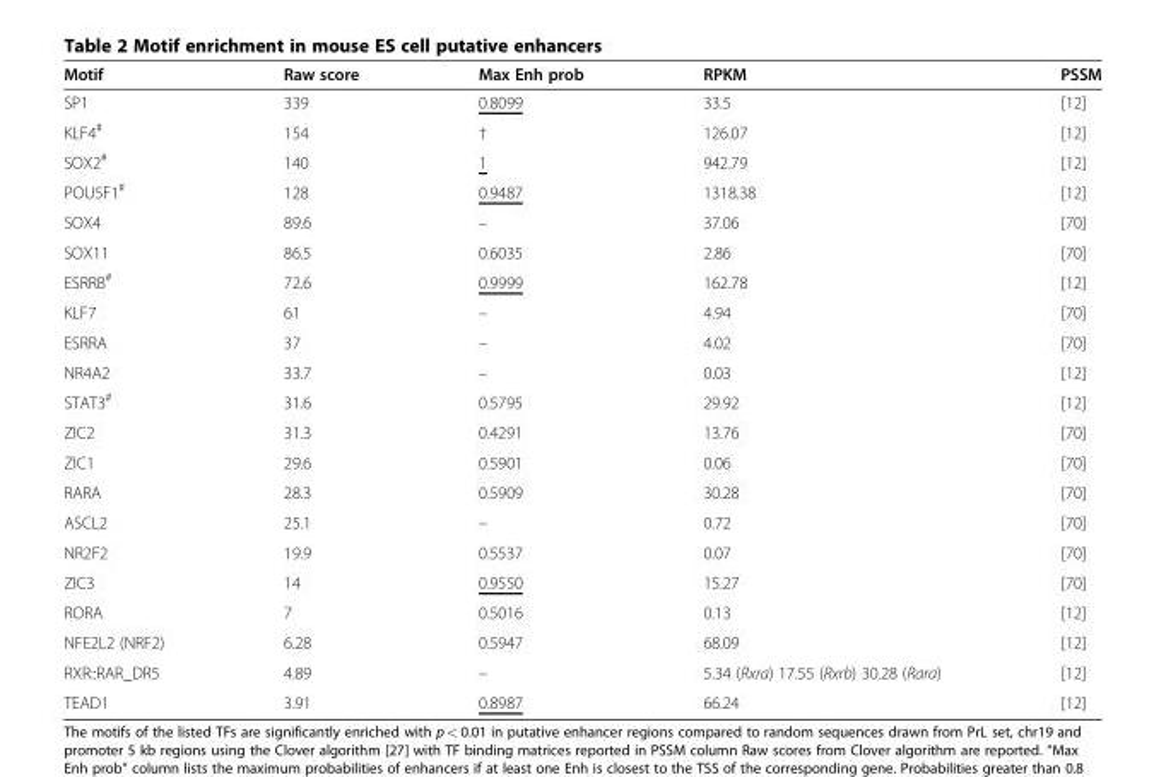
<table><thead><tr><td>Motif</td><td>Raw score</td><td>Max Enh prob</td><td>RPKM</td><td>PSSM</td></tr></thead><tbody><tr><td>SP1</td><td>339</td><td>0.8099</td><td>33.5</td><td>[12]</td></tr><tr><td>KLF4<sup>#</sup></td><td>154</td><td>†</td><td>126.07</td><td>[12]</td></tr><tr><td>SOX2<sup>#</sup></td><td>140</td><td>1</td><td>942.79</td><td>[12]</td></tr><tr><td>POU5F1<sup>#</sup></td><td>128</td><td>0.9487</td><td>1318.38</td><td>[12]</td></tr><tr><td>SOX4</td><td>89.6</td><td>–</td><td>37.06</td><td>[70]</td></tr><tr><td>SOX11</td><td>86.5</td><td>0.6035</td><td>2.86</td><td>[70]</td></tr><tr><td>ESRRB<sup>#</sup></td><td>72.6</td><td>0.9999</td><td>162.78</td><td>[12]</td></tr><tr><td>KLF7</td><td>61</td><td>–</td><td>4.94</td><td>[70]</td></tr><tr><td>ESRRA</td><td>37</td><td>–</td><td>4.02</td><td>[70]</td></tr><tr><td>NR4A2</td><td>33.7</td><td>–</td><td>0.03</td><td>[12]</td></tr><tr><td>STAT3<sup>#</sup></td><td>31.6</td><td>0.5795</td><td>29.92</td><td>[12]</td></tr><tr><td>ZIC2</td><td>31.3</td><td>0.4291</td><td>13.76</td><td>[70]</td></tr><tr><td>ZIC1</td><td>29.6</td><td>0.5901</td><td>0.06</td><td>[70]</td></tr><tr><td>RARA</td><td>28.3</td><td>0.5909</td><td>30.28</td><td>[70]</td></tr><tr><td>ASCL2</td><td>25.1</td><td>–</td><td>0.72</td><td>[70]</td></tr><tr><td>NR2F2</td><td>19.9</td><td>0.5537</td><td>0.07</td><td>[70]</td></tr><tr><td>ZIC3</td><td>14</td><td>0.9550</td><td>15.27</td><td>[70]</td></tr><tr><td>RORA</td><td>7</td><td>0.5016</td><td>0.13</td><td>[12]</td></tr><tr><td>NFE2L2 (NRF2)</td><td>6.28</td><td>0.5947</td><td>68.09</td><td>[12]</td></tr><tr><td>RXR::RAR_DR5</td><td>4.89</td><td>–</td><td>5.34 (Rxra) 17.55 (Rxrb) 30.28 (Rara)</td><td>[12]</td></tr><tr><td>TEAD1</td><td>3.91</td><td>0.8987</td><td>66.24</td><td>[12]</td></tr></tbody></table>